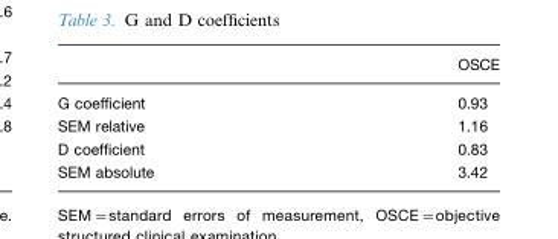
<table><thead><tr><td></td><td>OSCE</td></tr></thead><tbody><tr><td>G coefficient</td><td>0.93</td></tr><tr><td>SEM relative</td><td>1.16</td></tr><tr><td>D coefficient</td><td>0.83</td></tr><tr><td>SEM absolute</td><td>3.42</td></tr></tbody></table>